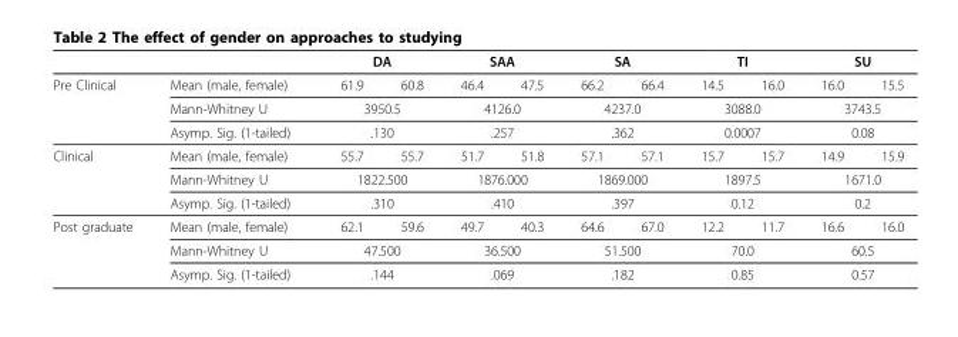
<table><thead><tr><td rowspan="2">Pre Clinical</td><td rowspan="2">Mean (male, female)</td><td colspan="2">DA</td><td colspan="2">SAA</td><td colspan="2">SA</td><td colspan="2">TI</td><td colspan="2">SU</td></tr><tr><td>61.9</td><td>60.8</td><td>46.4</td><td>47.5</td><td>66.2</td><td>66.4</td><td>14.5</td><td>16.0</td><td>16.0</td><td>15.5</td></tr></thead><tbody><tr><td></td><td>Mann-Whitney U</td><td colspan="2">3950.5</td><td colspan="2">4126.0</td><td colspan="2">4237.0</td><td colspan="2">3088.0</td><td colspan="2">3743.5</td></tr><tr><td></td><td>Asymp. Sig. (1-tailed)</td><td colspan="2">.130</td><td colspan="2">.257</td><td colspan="2">.362</td><td colspan="2">0.0007</td><td colspan="2">0.08</td></tr><tr><td rowspan="3">Clinical</td><td>Mean (male, female)</td><td>55.7</td><td>55.7</td><td>51.7</td><td>51.8</td><td>57.1</td><td>57.1</td><td>15.7</td><td>15.7</td><td>14.9</td><td>15.9</td></tr><tr><td>Mann-Whitney U</td><td colspan="2">1822.500</td><td colspan="2">1876.000</td><td colspan="2">1869.000</td><td colspan="2">1897.5</td><td colspan="2">1671.0</td></tr><tr><td>Asymp. Sig. (1-tailed)</td><td colspan="2">.310</td><td colspan="2">.410</td><td colspan="2">.397</td><td colspan="2">0.12</td><td colspan="2">0.2</td></tr><tr><td rowspan="3">Post graduate</td><td>Mean (male, female)</td><td>62.1</td><td>59.6</td><td>49.7</td><td>40.3</td><td>64.6</td><td>67.0</td><td>12.2</td><td>11.7</td><td>16.6</td><td>16.0</td></tr><tr><td>Mann-Whitney U</td><td colspan="2">47.500</td><td colspan="2">36.500</td><td colspan="2">51.500</td><td colspan="2">70.0</td><td colspan="2">60.5</td></tr><tr><td>Asymp. Sig. (1-tailed)</td><td colspan="2">.144</td><td colspan="2">.069</td><td colspan="2">.182</td><td colspan="2">0.85</td><td colspan="2">0.57</td></tr></tbody></table>